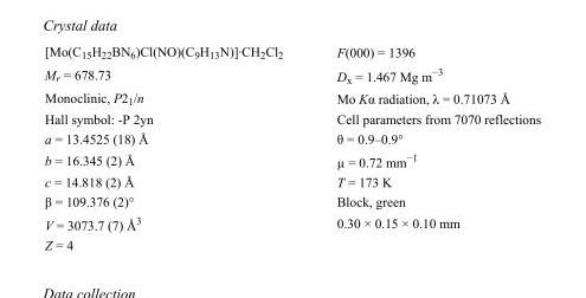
<table><tbody><tr><td>[Mo(C<sub>15</sub>H<sub>22</sub>BN<sub>6</sub>)Cl(NO)(C<sub>9</sub>H<sub>13</sub>N)]·CH<sub>2</sub>Cl<sub>2</sub></td><td>F(000) = 1396</td></tr><tr><td>M<sub>r</sub> = 678.73</td><td>D<sub>x</sub> = 1.467 Mg m<sup>−3</sup></td></tr><tr><td>Monoclinic, P2<sub>1</sub>/n</td><td>Mo Kα radiation, λ = 0.71073 Å</td></tr><tr><td>Hall symbol: -P 2yn</td><td>Cell parameters from 7070 reflections</td></tr><tr><td>a = 13.4525 (18) Å</td><td>θ = 0.9–0.9°</td></tr><tr><td>b = 16.345 (2) Å</td><td>µ = 0.72 mm<sup>−1</sup></td></tr><tr><td>c = 14.818 (2) Å</td><td>T = 173 K</td></tr><tr><td>β = 109.376 (2)°</td><td>Block, green</td></tr><tr><td>V = 3073.7 (7) Å<sup>3</sup></td><td>0.30 × 0.15 × 0.10 mm</td></tr><tr><td>Z = 4</td><td></td></tr></tbody></table>